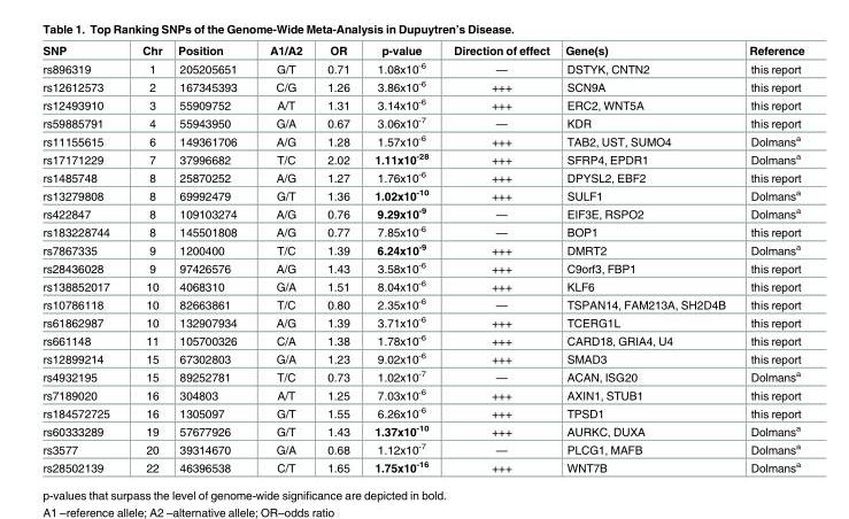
<table><thead><tr><td>SNP</td><td>Chr</td><td>Position</td><td>A1/A2</td><td>OR</td><td>p-value</td><td>Direction of effect</td><td>Gene(s)</td><td>Reference</td></tr></thead><tbody><tr><td>rs896319</td><td>1</td><td>205205651</td><td>G/T</td><td>0.71</td><td>1.08x10<sup>-6</sup></td><td>—</td><td>DSTYK, CNTN2</td><td>this report</td></tr><tr><td>rs12612573</td><td>2</td><td>167345393</td><td>C/G</td><td>1.26</td><td>3.86x10<sup>-6</sup></td><td>+++</td><td>SCN9A</td><td>this report</td></tr><tr><td>rs12493910</td><td>3</td><td>55909752</td><td>A/T</td><td>1.31</td><td>3.14x10<sup>-6</sup></td><td>+++</td><td>ERC2, WNT5A</td><td>this report</td></tr><tr><td>rs59885791</td><td>4</td><td>55943950</td><td>G/A</td><td>0.67</td><td>3.06x10<sup>-7</sup></td><td>—</td><td>KDR</td><td>this report</td></tr><tr><td>rs11155615</td><td>6</td><td>149361706</td><td>A/G</td><td>1.28</td><td>1.57x10<sup>-6</sup></td><td>+++</td><td>TAB2, UST, SUMO4</td><td>Dolmans<sup>a</sup></td></tr><tr><td>rs17171229</td><td>7</td><td>37996682</td><td>T/C</td><td>2.02</td><td>1.11x10<sup>-28</sup></td><td>+++</td><td>SFRP4, EPDR1</td><td>Dolmans<sup>a</sup></td></tr><tr><td>rs1485748</td><td>8</td><td>25870252</td><td>A/G</td><td>1.27</td><td>1.76x10<sup>-6</sup></td><td>+++</td><td>DPYSL2, EBF2</td><td>this report</td></tr><tr><td>rs13279808</td><td>8</td><td>69992479</td><td>G/T</td><td>1.36</td><td>1.02x10<sup>-10</sup></td><td>+++</td><td>SULF1</td><td>Dolmans<sup>a</sup></td></tr><tr><td>rs422847</td><td>8</td><td>109103274</td><td>A/G</td><td>0.76</td><td>9.29x10<sup>-9</sup></td><td>—</td><td>EIF3E, RSPO2</td><td>Dolmans<sup>a</sup></td></tr><tr><td>rs183228744</td><td>8</td><td>145501808</td><td>A/G</td><td>0.77</td><td>7.85x10<sup>-6</sup></td><td>—</td><td>BOP1</td><td>this report</td></tr><tr><td>rs7867335</td><td>9</td><td>1200400</td><td>T/C</td><td>1.39</td><td>6.24x10<sup>-9</sup></td><td>+++</td><td>DMRT2</td><td>Dolmans<sup>a</sup></td></tr><tr><td>rs28436028</td><td>9</td><td>97426576</td><td>A/G</td><td>1.43</td><td>3.58x10<sup>-6</sup></td><td>+++</td><td>C9orf3, FBP1</td><td>this report</td></tr><tr><td>rs138852017</td><td>10</td><td>4068310</td><td>G/A</td><td>1.51</td><td>8.04x10<sup>-6</sup></td><td>+++</td><td>KLF6</td><td>this report</td></tr><tr><td>rs10786118</td><td>10</td><td>82663861</td><td>T/C</td><td>0.80</td><td>2.35x10<sup>-6</sup></td><td>—</td><td>TSPAN14, FAM213A, SH2D4B</td><td>this report</td></tr><tr><td>rs61862987</td><td>10</td><td>132907934</td><td>A/G</td><td>1.39</td><td>3.71x10<sup>-6</sup></td><td>+++</td><td>TCERG1L</td><td>this report</td></tr><tr><td>rs661148</td><td>11</td><td>105700326</td><td>C/A</td><td>1.38</td><td>1.78x10<sup>-6</sup></td><td>+++</td><td>CARD18, GRIA4, U4</td><td>this report</td></tr><tr><td>rs12899214</td><td>15</td><td>67302803</td><td>G/A</td><td>1.23</td><td>9.02x10<sup>-6</sup></td><td>+++</td><td>SMAD3</td><td>this report</td></tr><tr><td>rs4932195</td><td>15</td><td>89252781</td><td>T/C</td><td>0.73</td><td>1.02x10<sup>-7</sup></td><td>—</td><td>ACAN, ISG20</td><td>Dolmans<sup>a</sup></td></tr><tr><td>rs7189020</td><td>16</td><td>304803</td><td>A/T</td><td>1.25</td><td>7.03x10<sup>-6</sup></td><td>+++</td><td>AXIN1, STUB1</td><td>this report</td></tr><tr><td>rs184572725</td><td>16</td><td>1305097</td><td>G/T</td><td>1.55</td><td>6.26x10<sup>-6</sup></td><td>+++</td><td>TPSD1</td><td>this report</td></tr><tr><td>rs60333289</td><td>19</td><td>57677926</td><td>G/T</td><td>1.43</td><td>1.37x10<sup>-10</sup></td><td>+++</td><td>AURKC, DUXA</td><td>Dolmans<sup>a</sup></td></tr><tr><td>rs3577</td><td>20</td><td>39314670</td><td>G/A</td><td>0.68</td><td>1.12x10<sup>-7</sup></td><td>—</td><td>PLCG1, MAFB</td><td>Dolmans<sup>a</sup></td></tr><tr><td>rs28502139</td><td>22</td><td>46396538</td><td>C/T</td><td>1.65</td><td>1.75x10<sup>-16</sup></td><td>+++</td><td>WNT7B</td><td>Dolmans<sup>a</sup></td></tr></tbody></table>